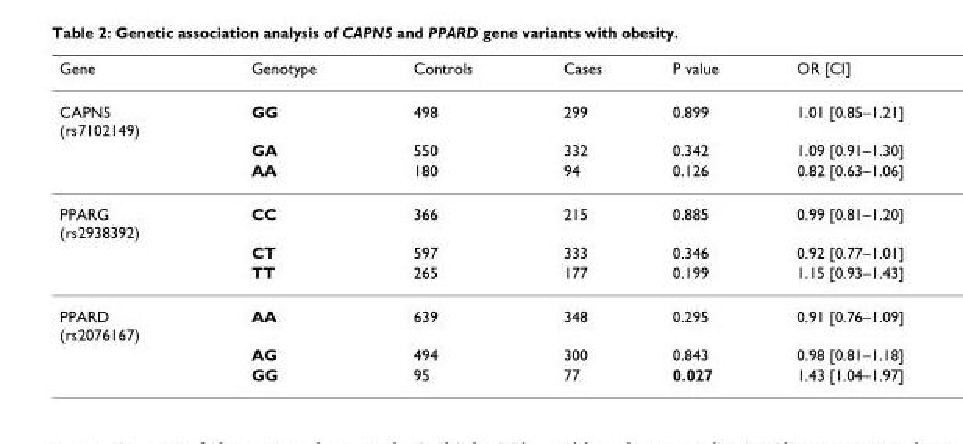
<table><thead><tr><td>Gene</td><td>Genotype</td><td>Controls</td><td>Cases</td><td>P value</td><td>OR [CI]</td></tr></thead><tbody><tr><td rowspan="3">CAPN5 (rs7102149)</td><td>GG</td><td>498</td><td>299</td><td>0.899</td><td>1.01 [0.85–1.21]</td></tr><tr><td>GA</td><td>550</td><td>332</td><td>0.342</td><td>1.09 [0.91–1.30]</td></tr><tr><td>AA</td><td>180</td><td>94</td><td>0.126</td><td>0.82 [0.63–1.06]</td></tr><tr><td rowspan="3">PPARG (rs2938392)</td><td>CC</td><td>366</td><td>215</td><td>0.885</td><td>0.99 [0.81–1.20]</td></tr><tr><td>CT</td><td>597</td><td>333</td><td>0.346</td><td>0.92 [0.77–1.01]</td></tr><tr><td>TT</td><td>265</td><td>177</td><td>0.199</td><td>1.15 [0.93–1.43]</td></tr><tr><td rowspan="3">PPARD (rs2076167)</td><td>AA</td><td>639</td><td>348</td><td>0.295</td><td>0.91 [0.76–1.09]</td></tr><tr><td>AG</td><td>494</td><td>300</td><td>0.843</td><td>0.98 [0.81–1.18]</td></tr><tr><td>GG</td><td>95</td><td>77</td><td>0.027</td><td>1.43 [1.04–1.97]</td></tr></tbody></table>